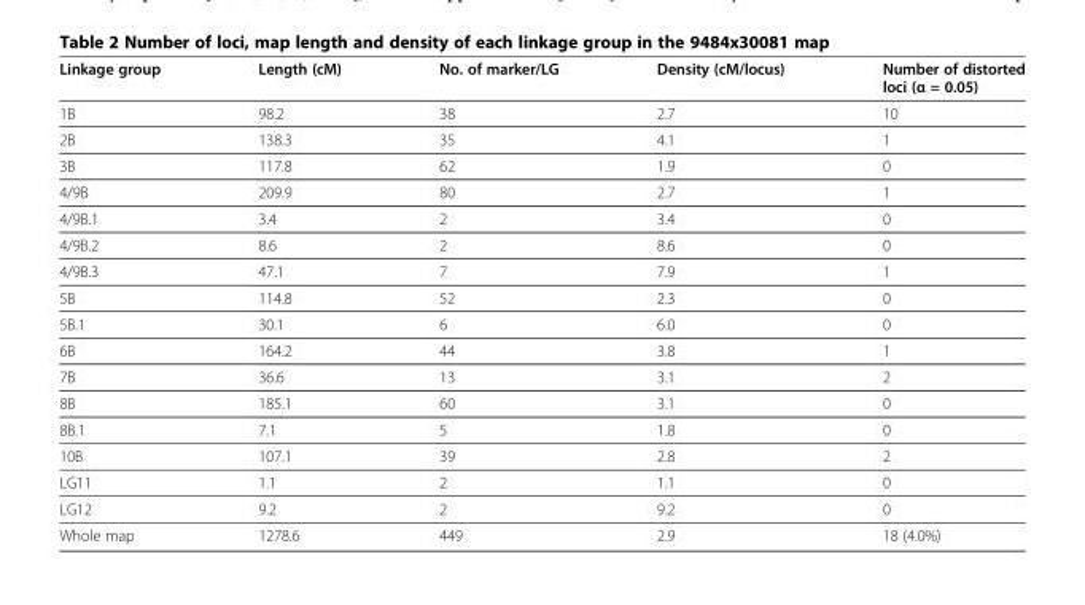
<table><thead><tr><td>Linkage group</td><td>Length (cM)</td><td>No. of marker/LG</td><td>Density (cM/locus)</td><td>Number of distorted loci (α = 0.05)</td></tr></thead><tbody><tr><td>1B</td><td>98.2</td><td>38</td><td>2.7</td><td>10</td></tr><tr><td>2B</td><td>138.3</td><td>35</td><td>4.1</td><td>1</td></tr><tr><td>3B</td><td>117.8</td><td>62</td><td>1.9</td><td>0</td></tr><tr><td>4/9B</td><td>209.9</td><td>80</td><td>2.7</td><td>1</td></tr><tr><td>4/9B.1</td><td>3.4</td><td>2</td><td>3.4</td><td>0</td></tr><tr><td>4/9B.2</td><td>8.6</td><td>2</td><td>8.6</td><td>0</td></tr><tr><td>4/9B.3</td><td>47.1</td><td>7</td><td>7.9</td><td>1</td></tr><tr><td>5B</td><td>114.8</td><td>52</td><td>2.3</td><td>0</td></tr><tr><td>5B.1</td><td>30.1</td><td>6</td><td>6.0</td><td>0</td></tr><tr><td>6B</td><td>164.2</td><td>44</td><td>3.8</td><td>1</td></tr><tr><td>7B</td><td>36.6</td><td>13</td><td>3.1</td><td>2</td></tr><tr><td>8B</td><td>185.1</td><td>60</td><td>3.1</td><td>0</td></tr><tr><td>8B.1</td><td>7.1</td><td>5</td><td>1.8</td><td>0</td></tr><tr><td>10B</td><td>107.1</td><td>39</td><td>2.8</td><td>2</td></tr><tr><td>LG11</td><td>1.1</td><td>2</td><td>1.1</td><td>0</td></tr><tr><td>LG12</td><td>9.2</td><td>2</td><td>9.2</td><td>0</td></tr><tr><td>Whole map</td><td>1278.6</td><td>449</td><td>2.9</td><td>18 (4.0%)</td></tr></tbody></table>